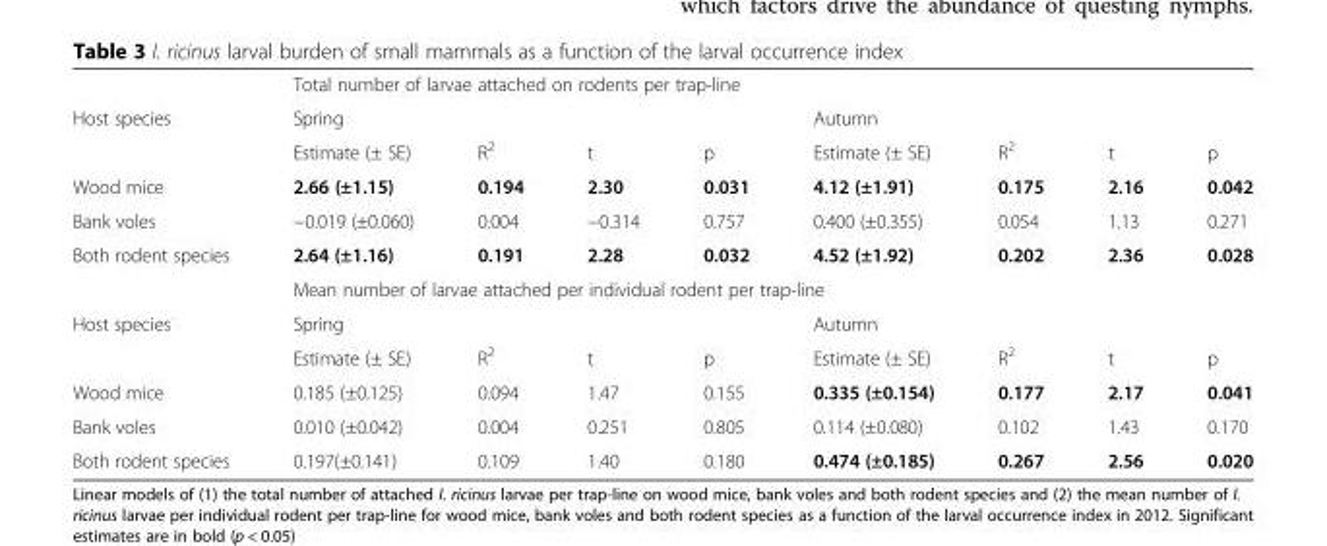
<table><thead><tr><td rowspan="3">Host species</td><td colspan="8">Total number of larvae attached on rodents per trap-line</td></tr><tr><td colspan="4">Spring</td><td colspan="4">Autumn</td></tr><tr><td>Estimate (± SE)</td><td>R<sup>2</sup></td><td>t</td><td>p</td><td>Estimate (± SE)</td><td>R<sup>2</sup></td><td>t</td><td>p</td></tr></thead><tbody><tr><td>Wood mice</td><td>2.66 (±1.15)</td><td>0.194</td><td>2.30</td><td>0.031</td><td>4.12 (±1.91)</td><td>0.175</td><td>2.16</td><td>0.042</td></tr><tr><td>Bank voles</td><td>−0.019 (±0.060)</td><td>0.004</td><td>−0.314</td><td>0.757</td><td>0.400 (±0.355)</td><td>0.054</td><td>1.13</td><td>0.271</td></tr><tr><td rowspan="2">Both rodent species</td><td>2.64 (±1.16)</td><td>0.191</td><td>2.28</td><td>0.032</td><td>4.52 (±1.92)</td><td>0.202</td><td>2.36</td><td>0.028</td></tr><tr><td colspan="8">Mean number of larvae attached per individual rodent per trap-line</td></tr><tr><td rowspan="2">Host species</td><td colspan="4">Spring</td><td colspan="4">Autumn</td></tr><tr><td>Estimate (± SE)</td><td>R<sup>2</sup></td><td>t</td><td>p</td><td>Estimate (± SE)</td><td>R<sup>2</sup></td><td>t</td><td>p</td></tr><tr><td>Wood mice</td><td>0.185 (±0.125)</td><td>0.094</td><td>1.47</td><td>0.155</td><td>0.335 (±0.154)</td><td>0.177</td><td>2.17</td><td>0.041</td></tr><tr><td>Bank voles</td><td>0.010 (±0.042)</td><td>0.004</td><td>0.251</td><td>0.805</td><td>0.114 (±0.080)</td><td>0.102</td><td>1.43</td><td>0.170</td></tr><tr><td>Both rodent species</td><td>0.197(±0.141)</td><td>0.109</td><td>1.40</td><td>0.180</td><td>0.474 (±0.185)</td><td>0.267</td><td>2.56</td><td>0.020</td></tr></tbody></table>